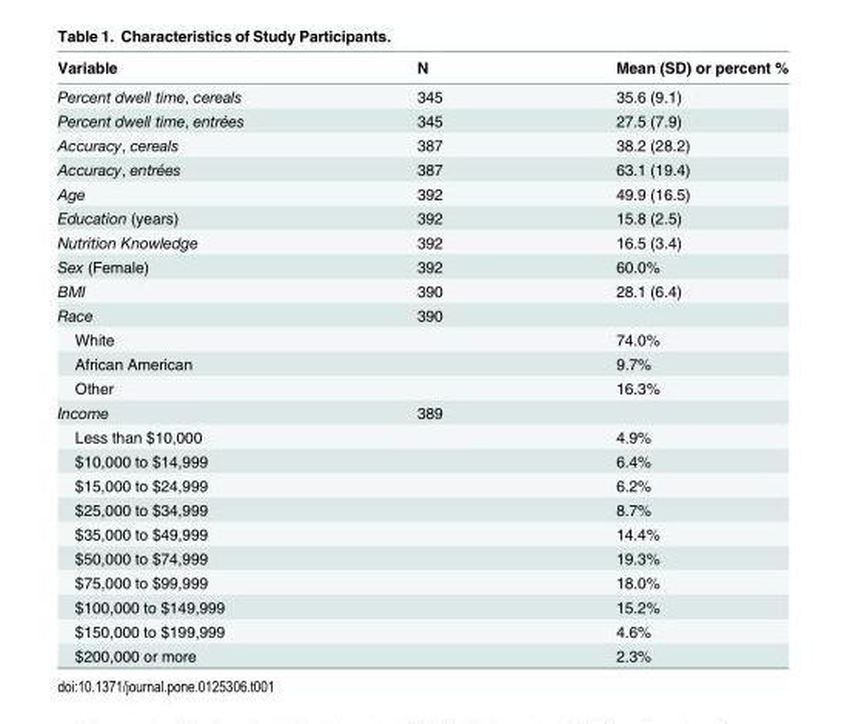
<table><thead><tr><td>Variable</td><td>N</td><td>Mean (SD) or percent %</td></tr></thead><tbody><tr><td>Percent dwell time, cereals</td><td>345</td><td>35.6 (9.1)</td></tr><tr><td>Percent dwell time, entrées</td><td>345</td><td>27.5 (7.9)</td></tr><tr><td>Accuracy, cereals</td><td>387</td><td>38.2 (28.2)</td></tr><tr><td>Accuracy, entrées</td><td>387</td><td>63.1 (19.4)</td></tr><tr><td>Age</td><td>392</td><td>49.9 (16.5)</td></tr><tr><td>Education (years)</td><td>392</td><td>15.8 (2.5)</td></tr><tr><td>Nutrition Knowledge</td><td>392</td><td>16.5 (3.4)</td></tr><tr><td>Sex (Female)</td><td>392</td><td>60.0%</td></tr><tr><td>BMI</td><td>390</td><td>28.1 (6.4)</td></tr><tr><td>Race</td><td>390</td><td></td></tr><tr><td>White</td><td></td><td>74.0%</td></tr><tr><td>African American</td><td></td><td>9.7%</td></tr><tr><td>Other</td><td></td><td>16.3%</td></tr><tr><td>Income</td><td>389</td><td></td></tr><tr><td>Less than $10,000</td><td></td><td>4.9%</td></tr><tr><td>$10,000 to $14,999</td><td></td><td>6.4%</td></tr><tr><td>$15,000 to $24,999</td><td></td><td>6.2%</td></tr><tr><td>$25,000 to $34,999</td><td></td><td>8.7%</td></tr><tr><td>$35,000 to $49,999</td><td></td><td>14.4%</td></tr><tr><td>$50,000 to $74,999</td><td></td><td>19.3%</td></tr><tr><td>$75,000 to $99,999</td><td></td><td>18.0%</td></tr><tr><td>$100,000 to $149,999</td><td></td><td>15.2%</td></tr><tr><td>$150,000 to $199,999</td><td></td><td>4.6%</td></tr><tr><td>$200,000 or more</td><td></td><td>2.3%</td></tr></tbody></table>